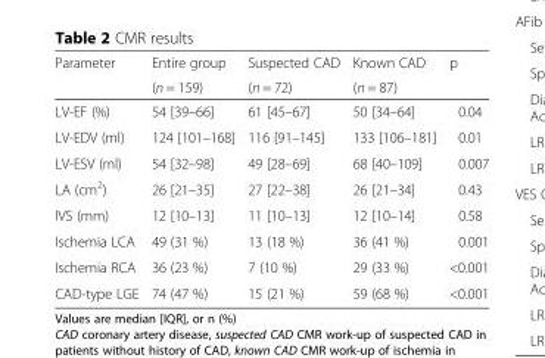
<table><thead><tr><td rowspan="2">Parameter</td><td rowspan="2">Entire group (n = 159)</td><td rowspan="2">Suspected CAD (n = 72)</td><td rowspan="2">Known CAD (n = 87)</td><td rowspan="2">p</td></tr><tr></tr></thead><tbody><tr><td>LV-EF (%)</td><td>54 [39–66]</td><td>61 [45–67]</td><td>50 [34–64]</td><td>0.04</td></tr><tr><td>LV-EDV (ml)</td><td>124 [101–168]</td><td>116 [91–145]</td><td>133 [106–181]</td><td>0.01</td></tr><tr><td>LV-ESV (ml)</td><td>54 [32–98]</td><td>49 [28–69]</td><td>68 [40–109]</td><td>0.007</td></tr><tr><td>LA (cm<sup>2</sup>)</td><td>26 [21–35]</td><td>27 [22–38]</td><td>26 [21–34]</td><td>0.43</td></tr><tr><td>IVS (mm)</td><td>12 [10–13]</td><td>11 [10–13]</td><td>12 [10–14]</td><td>0.58</td></tr><tr><td>Ischemia LCA</td><td>49 (31 %)</td><td>13 (18 %)</td><td>36 (41 %)</td><td>0.001</td></tr><tr><td>Ischemia RCA</td><td>36 (23 %)</td><td>7 (10 %)</td><td>29 (33 %)</td><td>&lt;0.001</td></tr><tr><td>CAD-type LGE</td><td>74 (47 %)</td><td>15 (21 %)</td><td>59 (68 %)</td><td>&lt;0.001</td></tr></tbody></table>